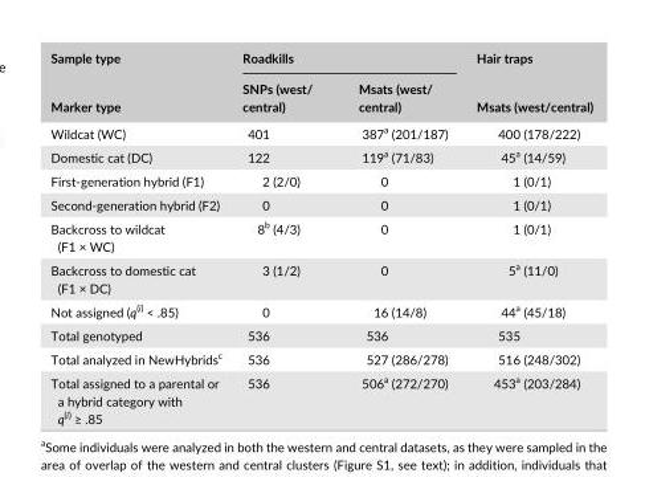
<table><thead><tr><td rowspan="2">Sample type Marker type</td><td colspan="2">Roadkills</td><td rowspan="2">Hair traps Msats (west/central)</td></tr><tr><td>SNPs (west/ central)</td><td>Msats (west/ central)</td></tr></thead><tbody><tr><td>Wildcat (WC)</td><td>401</td><td>387<sup>a</sup> (201/187)</td><td>400 (178/222)</td></tr><tr><td>Domestic cat (DC)</td><td>122</td><td>119<sup>a</sup> (71/83)</td><td>45<sup>a</sup> (14/59)</td></tr><tr><td>First- generation hybrid (F1)</td><td>2 (2/0)</td><td>0</td><td>1 (0/1)</td></tr><tr><td>Second- generation hybrid (F2)</td><td>0</td><td>0</td><td>1 (0/1)</td></tr><tr><td>Backcross to wildcat (F1 × WC)</td><td>8<sup>b</sup> (4/3)</td><td>0</td><td>1 (0/1)</td></tr><tr><td>Backcross to domestic cat (F1 × DC)</td><td>3 (1/2)</td><td>0</td><td>5<sup>a</sup> (11/0)</td></tr><tr><td>Not assigned (q<sup>(i)</sup> &lt; .85)</td><td>0</td><td>16 (14/8)</td><td>44<sup>a</sup> (45/18)</td></tr><tr><td>Total genotyped</td><td>536</td><td>536</td><td>535</td></tr><tr><td>Total analyzed in NewHybrids<sup>c</sup></td><td>536</td><td>527 (286/278)</td><td>516 (248/302)</td></tr><tr><td>Total assigned to a parental or a hybrid category with q<sup>(i)</sup> ≥ .85</td><td>536</td><td>506<sup>a</sup> (272/270)</td><td>453<sup>a</sup> (203/284)</td></tr></tbody></table>